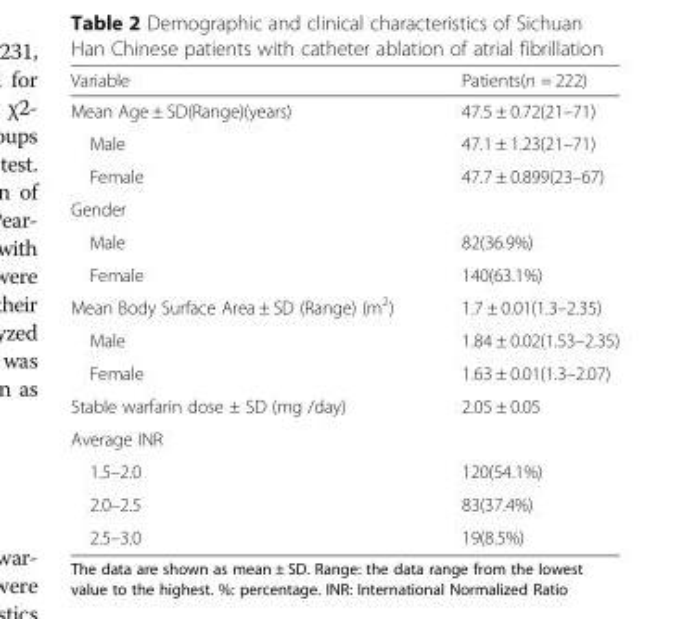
<table><thead><tr><td>Variable</td><td>Patients(n = 222)</td></tr></thead><tbody><tr><td>Mean Age ± SD(Range)(years)</td><td>47.5 ± 0.72(21–71)</td></tr><tr><td>Male</td><td>47.1 ± 1.23(21–71)</td></tr><tr><td>Female</td><td>47.7 ± 0.899(23–67)</td></tr><tr><td colspan="2">Gender</td></tr><tr><td>Male</td><td>82(36.9%)</td></tr><tr><td>Female</td><td>140(63.1%)</td></tr><tr><td>Mean Body Surface Area ± SD (Range) (m<sup>2</sup>)</td><td>1.7 ± 0.01(1.3–2.35)</td></tr><tr><td>Male</td><td>1.84 ± 0.02(1.53–2.35)</td></tr><tr><td>Female</td><td>1.63 ± 0.01(1.3–2.07)</td></tr><tr><td>Stable warfarin dose ± SD (mg /day)</td><td>2.05 ± 0.05</td></tr><tr><td colspan="2">Average INR</td></tr><tr><td>1.5–2.0</td><td>120(54.1%)</td></tr><tr><td>2.0–2.5</td><td>83(37.4%)</td></tr><tr><td>2.5–3.0</td><td>19(8.5%)</td></tr></tbody></table>